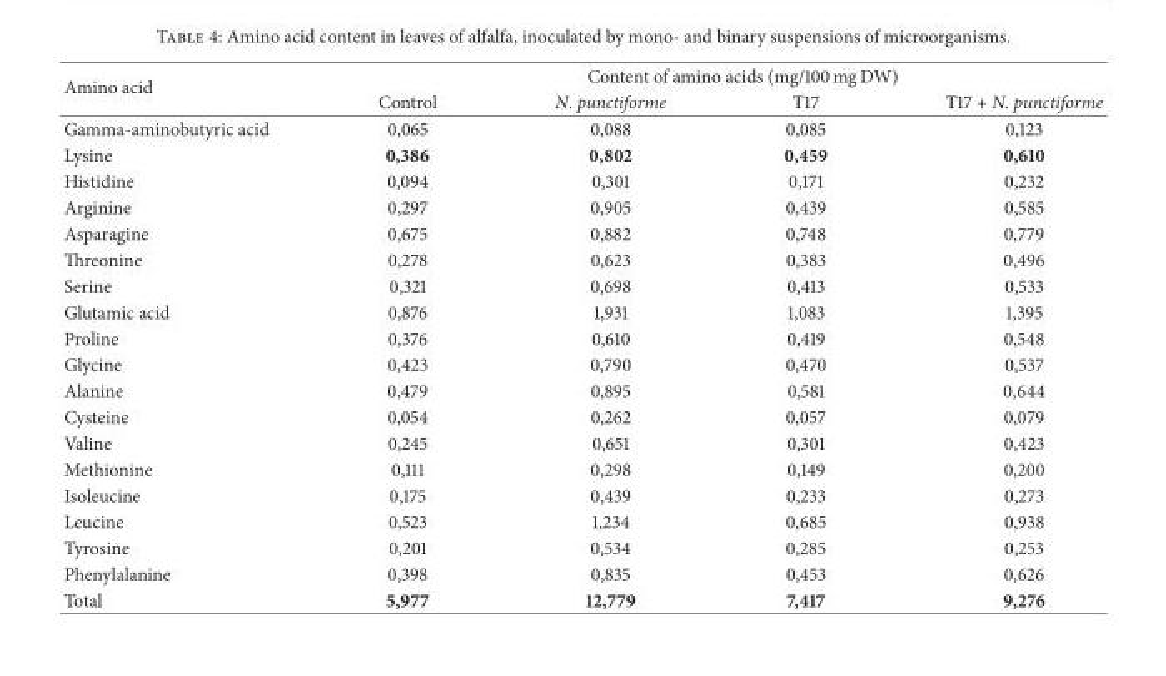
<table><thead><tr><td rowspan="2">Amino acid</td><td colspan="4">Content of amino acids (mg/100 mg DW)</td></tr><tr><td>Control</td><td>N. punctiforme</td><td>Т17</td><td>Т17 + N. punctiforme</td></tr></thead><tbody><tr><td>Gamma-aminobutyric acid</td><td>0,065</td><td>0,088</td><td>0,085</td><td>0,123</td></tr><tr><td>Lysine</td><td>0,386</td><td>0,802</td><td>0,459</td><td>0,610</td></tr><tr><td>Histidine</td><td>0,094</td><td>0,301</td><td>0,171</td><td>0,232</td></tr><tr><td>Arginine</td><td>0,297</td><td>0,905</td><td>0,439</td><td>0,585</td></tr><tr><td>Asparagine</td><td>0,675</td><td>0,882</td><td>0,748</td><td>0,779</td></tr><tr><td>Threonine</td><td>0,278</td><td>0,623</td><td>0,383</td><td>0,496</td></tr><tr><td>Serine</td><td>0,321</td><td>0,698</td><td>0,413</td><td>0,533</td></tr><tr><td>Glutamic acid</td><td>0,876</td><td>1,931</td><td>1,083</td><td>1,395</td></tr><tr><td>Proline</td><td>0,376</td><td>0,610</td><td>0,419</td><td>0,548</td></tr><tr><td>Glycine</td><td>0,423</td><td>0,790</td><td>0,470</td><td>0,537</td></tr><tr><td>Alanine</td><td>0,479</td><td>0,895</td><td>0,581</td><td>0,644</td></tr><tr><td>Cysteine</td><td>0,054</td><td>0,262</td><td>0,057</td><td>0,079</td></tr><tr><td>Valine</td><td>0,245</td><td>0,651</td><td>0,301</td><td>0,423</td></tr><tr><td>Methionine</td><td>0,111</td><td>0,298</td><td>0,149</td><td>0,200</td></tr><tr><td>Isoleucine</td><td>0,175</td><td>0,439</td><td>0,233</td><td>0,273</td></tr><tr><td>Leucine</td><td>0,523</td><td>1,234</td><td>0,685</td><td>0,938</td></tr><tr><td>Tyrosine</td><td>0,201</td><td>0,534</td><td>0,285</td><td>0,253</td></tr><tr><td>Phenylalanine</td><td>0,398</td><td>0,835</td><td>0,453</td><td>0,626</td></tr><tr><td>Total</td><td>5,977</td><td>12,779</td><td>7,417</td><td>9,276</td></tr></tbody></table>